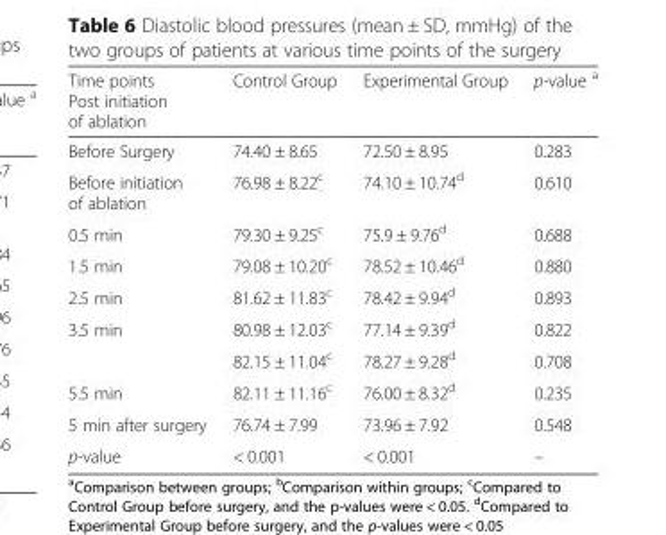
<table><thead><tr><td>Time points Post initiation of ablation</td><td>Control Group</td><td>Experimental Group</td><td>p-value <sup>a</sup></td></tr></thead><tbody><tr><td>Before Surgery</td><td>74.40 ± 8.65</td><td>72.50 ± 8.95</td><td>0.283</td></tr><tr><td>Before initiation of ablation</td><td>76.98 ± 8.22<sup>c</sup></td><td>74.10 ± 10.74<sup>d</sup></td><td>0.610</td></tr><tr><td>0.5 min</td><td>79.30 ± 9.25<sup>c</sup></td><td>75.9 ± 9.76<sup>d</sup></td><td>0.688</td></tr><tr><td>1.5 min</td><td>79.08 ± 10.20<sup>c</sup></td><td>78.52 ± 10.46<sup>d</sup></td><td>0.880</td></tr><tr><td>2.5 min</td><td>81.62 ± 11.83<sup>c</sup></td><td>78.42 ± 9.94<sup>d</sup></td><td>0.893</td></tr><tr><td rowspan="2">3.5 min</td><td>80.98 ± 12.03<sup>c</sup></td><td>77.14 ± 9.39<sup>d</sup></td><td>0.822</td></tr><tr><td>82.15 ± 11.04<sup>c</sup></td><td>78.27 ± 9.28<sup>d</sup></td><td>0.708</td></tr><tr><td>5.5 min</td><td>82.11 ± 11.16<sup>c</sup></td><td>76.00 ± 8.32<sup>d</sup></td><td>0.235</td></tr><tr><td>5 min after surgery</td><td>76.74 ± 7.99</td><td>73.96 ± 7.92</td><td>0.548</td></tr><tr><td>p-value</td><td>&lt; 0.001</td><td>&lt; 0.001</td><td>–</td></tr></tbody></table>